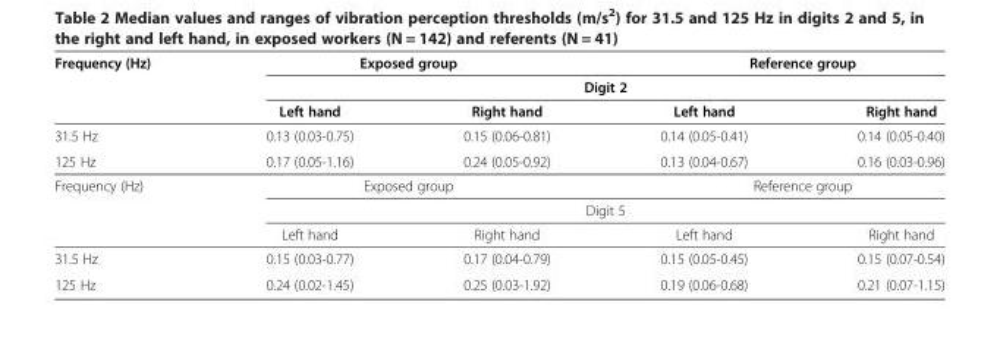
<table><thead><tr><td rowspan="3">Frequency (Hz)</td><td colspan="2">Exposed group</td><td colspan="2">Reference group</td></tr><tr><td colspan="4">Digit 2</td></tr><tr><td>Left hand</td><td>Right hand</td><td>Left hand</td><td>Right hand</td></tr></thead><tbody><tr><td>31.5 Hz</td><td>0.13 (0.03-0.75)</td><td>0.15 (0.06-0.81)</td><td>0.14 (0.05-0.41)</td><td>0.14 (0.05-0.40)</td></tr><tr><td>125 Hz</td><td>0.17 (0.05-1.16)</td><td>0.24 (0.05-0.92)</td><td>0.13 (0.04-0.67)</td><td>0.16 (0.03-0.96)</td></tr><tr><td rowspan="3">Frequency (Hz)</td><td colspan="2">Exposed group</td><td colspan="2">Reference group</td></tr><tr><td colspan="4">Digit 5</td></tr><tr><td>Left hand</td><td>Right hand</td><td>Left hand</td><td>Right hand</td></tr><tr><td>31.5 Hz</td><td>0.15 (0.03-0.77)</td><td>0.17 (0.04-0.79)</td><td>0.15 (0.05-0.45)</td><td>0.15 (0.07-0.54)</td></tr><tr><td>125 Hz</td><td>0.24 (0.02-1.45)</td><td>0.25 (0.03-1.92)</td><td>0.19 (0.06-0.68)</td><td>0.21 (0.07-1.15)</td></tr></tbody></table>